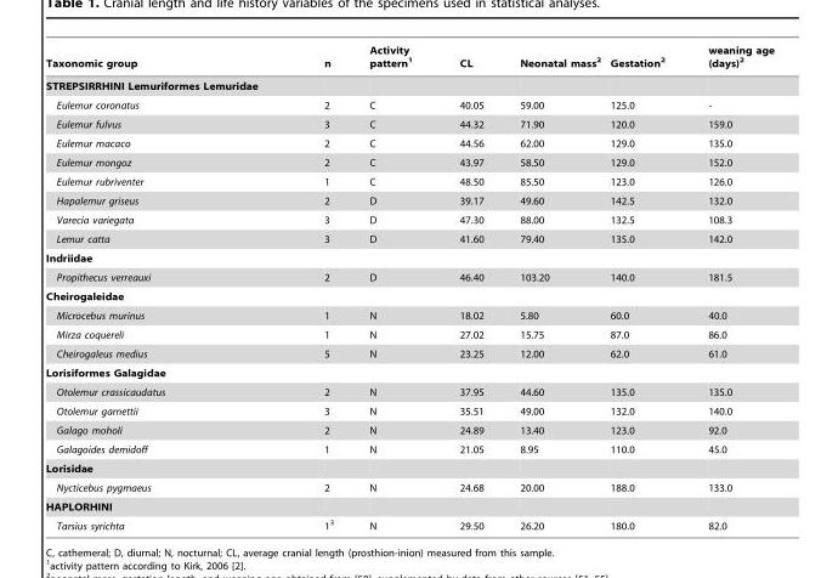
<table><thead><tr><td>Taxonomic group</td><td>n</td><td>Activity pattern<sup>1</sup></td><td>CL</td><td>Neonatal mass<sup>2</sup></td><td>Gestation<sup>2</sup></td><td>weaning age (days)<sup>2</sup></td></tr></thead><tbody><tr><td colspan="7">STREPSIRRHINI Lemuriformes Lemuridae</td></tr><tr><td>Eulemur coronatus</td><td>2</td><td>C</td><td>40.05</td><td>59.00</td><td>125.0</td><td>-</td></tr><tr><td>Eulemur fulvus</td><td>3</td><td>C</td><td>44.32</td><td>71.90</td><td>120.0</td><td>159.0</td></tr><tr><td>Eulemur macaco</td><td>2</td><td>C</td><td>44.56</td><td>62.00</td><td>129.0</td><td>135.0</td></tr><tr><td>Eulemur mongoz</td><td>2</td><td>C</td><td>43.97</td><td>58.50</td><td>129.0</td><td>152.0</td></tr><tr><td>Eulemur rubriventer</td><td>1</td><td>C</td><td>48.50</td><td>85.50</td><td>123.0</td><td>126.0</td></tr><tr><td>Hapalemur griseus</td><td>2</td><td>D</td><td>39.17</td><td>49.60</td><td>142.5</td><td>132.0</td></tr><tr><td>Varecia variegata</td><td>3</td><td>D</td><td>47.30</td><td>88.00</td><td>132.5</td><td>108.3</td></tr><tr><td>Lemur catta</td><td>3</td><td>D</td><td>41.60</td><td>79.40</td><td>135.0</td><td>142.0</td></tr><tr><td colspan="7">Indriidae</td></tr><tr><td>Propithecus verreauxi</td><td>2</td><td>D</td><td>46.40</td><td>103.20</td><td>140.0</td><td>181.5</td></tr><tr><td colspan="7">Cheirogaleidae</td></tr><tr><td>Microcebus murinus</td><td>1</td><td>N</td><td>18.02</td><td>5.80</td><td>60.0</td><td>40.0</td></tr><tr><td>Mirza coquereli</td><td>1</td><td>N</td><td>27.02</td><td>15.75</td><td>87.0</td><td>86.0</td></tr><tr><td>Cheirogaleus medius</td><td>5</td><td>N</td><td>23.25</td><td>12.00</td><td>62.0</td><td>61.0</td></tr><tr><td colspan="7">Lorisiformes Galagidae</td></tr><tr><td>Otolemur crassicaudatus</td><td>2</td><td>N</td><td>37.95</td><td>44.60</td><td>135.0</td><td>135.0</td></tr><tr><td>Otolemur garnettii</td><td>3</td><td>N</td><td>35.51</td><td>49.00</td><td>132.0</td><td>140.0</td></tr><tr><td>Galago moholi</td><td>2</td><td>N</td><td>24.89</td><td>13.40</td><td>123.0</td><td>92.0</td></tr><tr><td>Galagoides demidoff</td><td>1</td><td>N</td><td>21.05</td><td>8.95</td><td>110.0</td><td>45.0</td></tr><tr><td colspan="7">Lorisidae</td></tr><tr><td>Nycticebus pygmaeus</td><td>2</td><td>N</td><td>24.68</td><td>20.00</td><td>188.0</td><td>133.0</td></tr><tr><td colspan="7">HAPLORHINI</td></tr><tr><td>Tarsius syrichta</td><td>1<sup>3</sup></td><td>N</td><td>29.50</td><td>26.20</td><td>180.0</td><td>82.0</td></tr></tbody></table>